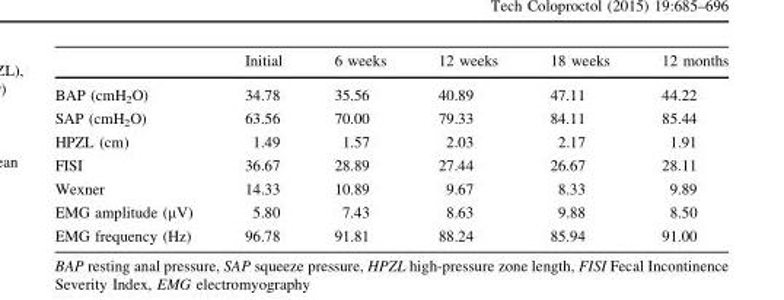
<table><thead><tr><td></td><td>Initial</td><td>6 weeks</td><td>12 weeks</td><td>18 weeks</td><td>12 months</td></tr></thead><tbody><tr><td>BAP (cmH<sub>2</sub>O)</td><td>34.78</td><td>35.56</td><td>40.89</td><td>47.11</td><td>44.22</td></tr><tr><td>SAP (cmH<sub>2</sub>O)</td><td>63.56</td><td>70.00</td><td>79.33</td><td>84.11</td><td>85.44</td></tr><tr><td>HPZL (cm)</td><td>1.49</td><td>1.57</td><td>2.03</td><td>2.17</td><td>1.91</td></tr><tr><td>FISI</td><td>36.67</td><td>28.89</td><td>27.44</td><td>26.67</td><td>28.11</td></tr><tr><td>Wexner</td><td>14.33</td><td>10.89</td><td>9.67</td><td>8.33</td><td>9.89</td></tr><tr><td>EMG amplitude (µV)</td><td>5.80</td><td>7.43</td><td>8.63</td><td>9.88</td><td>8.50</td></tr><tr><td>EMG frequency (Hz)</td><td>96.78</td><td>91.81</td><td>88.24</td><td>85.94</td><td>91.00</td></tr></tbody></table>